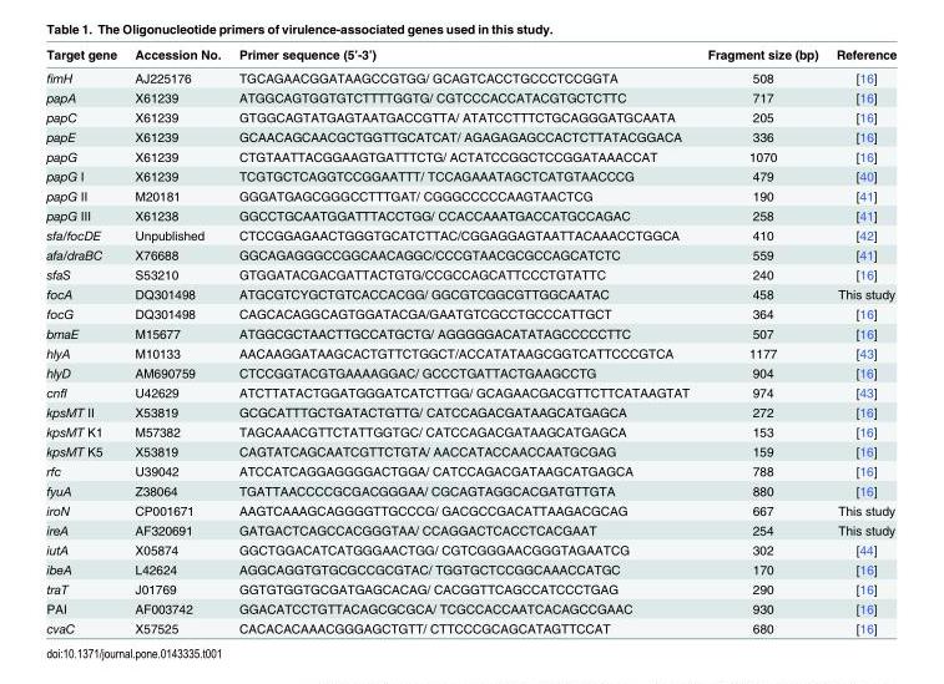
<table><thead><tr><td>Target gene</td><td>Accession No.</td><td>Primer sequence (5’-3’)</td><td>Fragment size (bp)</td><td>Reference</td></tr></thead><tbody><tr><td>fimH</td><td>AJ225176</td><td>TGCAGAACGGATAAGCCGTGG/ GCAGTCACCTGCCCTCCGGTA</td><td>508</td><td>[16]</td></tr><tr><td>papA</td><td>X61239</td><td>ATGGCAGTGGTGTCTTTTGGTG/ CGTCCCACCATACGTGCTCTTC</td><td>717</td><td>[16]</td></tr><tr><td>papC</td><td>X61239</td><td>GTGGCAGTATGAGTAATGACCGTTA/ ATATCCTTTCTGCAGGGATGCAATA</td><td>205</td><td>[16]</td></tr><tr><td>papE</td><td>X61239</td><td>GCAACAGCAACGCTGGTTGCATCAT/ AGAGAGAGCCACTCTTATACGGACA</td><td>336</td><td>[16]</td></tr><tr><td>papG</td><td>X61239</td><td>CTGTAATTACGGAAGTGATTTCTG/ ACTATCCGGCTCCGGATAAACCAT</td><td>1070</td><td>[16]</td></tr><tr><td>papG I</td><td>X61239</td><td>TCGTGCTCAGGTCCGGAATTT/ TCCAGAAATAGCTCATGTAACCCG</td><td>479</td><td>[40]</td></tr><tr><td>papG II</td><td>M20181</td><td>GGGATGAGCGGGCCTTTGAT/ CGGGCCCCCAAGTAACTCG</td><td>190</td><td>[41]</td></tr><tr><td>papG III</td><td>X61238</td><td>GGCCTGCAATGGATTTACCTGG/ CCACCAAATGACCATGCCAGAC</td><td>258</td><td>[41]</td></tr><tr><td>sfa/focDE</td><td>Unpublished</td><td>CTCCGGAGAACTGGGTGCATCTTAC/CGGAGGAGTAATTACAAACCTGGCA</td><td>410</td><td>[42]</td></tr><tr><td>afa/draBC</td><td>X76688</td><td>GGCAGAGGGCCGGCAACAGGC/CCCGTAACGCGCCAGCATCTC</td><td>559</td><td>[41]</td></tr><tr><td>sfaS</td><td>S53210</td><td>GTGGATACGACGATTACTGTG/CCGCCAGCATTCCCTGTATTC</td><td>240</td><td>[16]</td></tr><tr><td>focA</td><td>DQ301498</td><td>ATGCGTCYGCTGTCACCACGG/ GGCGTCGGCGTTGGCAATAC</td><td>458</td><td>This study</td></tr><tr><td>focG</td><td>DQ301498</td><td>CAGCACAGGCAGTGGATACGA/GAATGTCGCCTGCCCATTGCT</td><td>364</td><td>[16]</td></tr><tr><td>bmaE</td><td>M15677</td><td>ATGGCGCTAACTTGCCATGCTG/ AGGGGGACATATAGCCCCCTTC</td><td>507</td><td>[16]</td></tr><tr><td>hlyA</td><td>M10133</td><td>AACAAGGATAAGCACTGTTCTGGCT/ACCATATAAGCGGTCATTCCCGTCA</td><td>1177</td><td>[43]</td></tr><tr><td>hlyD</td><td>AM690759</td><td>CTCCGGTACGTGAAAAGGAC/ GCCCTGATTACTGAAGCCTG</td><td>904</td><td>[16]</td></tr><tr><td>cnfI</td><td>U42629</td><td>ATCTTATACTGGATGGGATCATCTTGG/ GCAGAACGACGTTCTTCATAAGTAT</td><td>974</td><td>[43]</td></tr><tr><td>kpsMT II</td><td>X53819</td><td>GCGCATTTGCTGATACTGTTG/ CATCCAGACGATAAGCATGAGCA</td><td>272</td><td>[16]</td></tr><tr><td>kpsMT K1</td><td>M57382</td><td>TAGCAAACGTTCTATTGGTGC/ CATCCAGACGATAAGCATGAGCA</td><td>153</td><td>[16]</td></tr><tr><td>kpsMT K5</td><td>X53819</td><td>CAGTATCAGCAATCGTTCTGTA/ AACCATACCAACCAATGCGAG</td><td>159</td><td>[16]</td></tr><tr><td>rfc</td><td>U39042</td><td>ATCCATCAGGAGGGGACTGGA/ CATCCAGACGATAAGCATGAGCA</td><td>788</td><td>[16]</td></tr><tr><td>fyuA</td><td>Z38064</td><td>TGATTAACCCCGCGACGGGAA/ CGCAGTAGGCACGATGTTGTA</td><td>880</td><td>[16]</td></tr><tr><td>iroN</td><td>CP001671</td><td>AAGTCAAAGCAGGGGTTGCCCG/ GACGCCGACATTAAGACGCAG</td><td>667</td><td>This study</td></tr><tr><td>ireA</td><td>AF320691</td><td>GATGACTCAGCCACGGGTAA/ CCAGGACTCACCTCACGAAT</td><td>254</td><td>This study</td></tr><tr><td>iutA</td><td>X05874</td><td>GGCTGGACATCATGGGAACTGG/ CGTCGGGAACGGGTAGAATCG</td><td>302</td><td>[44]</td></tr><tr><td>ibeA</td><td>L42624</td><td>AGGCAGGTGTGCGCCGCGTAC/ TGGTGCTCCGGCAAACCATGC</td><td>170</td><td>[16]</td></tr><tr><td>traT</td><td>J01769</td><td>GGTGTGGTGCGATGAGCACAG/ CACGGTTCAGCCATCCCTGAG</td><td>290</td><td>[16]</td></tr><tr><td>PAI</td><td>AF003742</td><td>GGACATCCTGTTACAGCGCGCA/ TCGCCACCAATCACAGCCGAAC</td><td>930</td><td>[16]</td></tr><tr><td>cvaC</td><td>X57525</td><td>CACACACAAACGGGAGCTGTT/ CTTCCCGCAGCATAGTTCCAT</td><td>680</td><td>[16]</td></tr></tbody></table>